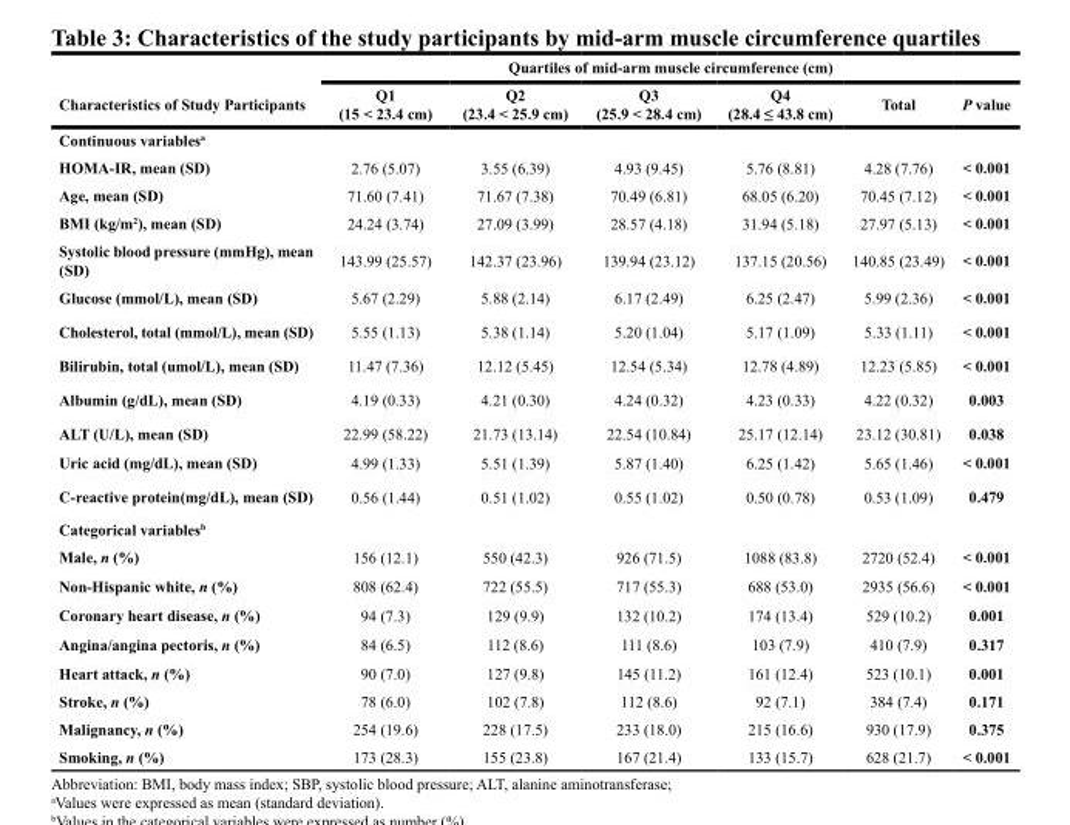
<table><thead><tr><td rowspan="2">Characteristics of Study Participants</td><td colspan="6">Quartiles of mid-arm muscle circumference (cm)</td></tr><tr><td>Q1 (15 &lt; 23.4 cm)</td><td>Q2 (23.4 &lt; 25.9 cm)</td><td>Q3 (25.9 &lt; 28.4 cm)</td><td>Q4 (28.4 ≤ 43.8 cm)</td><td>Total</td><td>P value</td></tr></thead><tbody><tr><td colspan="7">Continuous variables<sup>a</sup></td></tr><tr><td>HOMA-IR, mean (SD)</td><td>2.76 (5.07)</td><td>3.55 (6.39)</td><td>4.93 (9.45)</td><td>5.76 (8.81)</td><td>4.28 (7.76)</td><td>&lt; 0.001</td></tr><tr><td>Age, mean (SD)</td><td>71.60 (7.41)</td><td>71.67 (7.38)</td><td>70.49 (6.81)</td><td>68.05 (6.20)</td><td>70.45 (7.12)</td><td>&lt; 0.001</td></tr><tr><td>BMI (kg/m<sup>2</sup>), mean (SD)</td><td>24.24 (3.74)</td><td>27.09 (3.99)</td><td>28.57 (4.18)</td><td>31.94 (5.18)</td><td>27.97 (5.13)</td><td>&lt; 0.001</td></tr><tr><td>Systolic blood pressure (mmHg), mean (SD)</td><td>143.99 (25.57)</td><td>142.37 (23.96)</td><td>139.94 (23.12)</td><td>137.15 (20.56)</td><td>140.85 (23.49)</td><td>&lt; 0.001</td></tr><tr><td>Glucose (mmol/L), mean (SD)</td><td>5.67 (2.29)</td><td>5.88 (2.14)</td><td>6.17 (2.49)</td><td>6.25 (2.47)</td><td>5.99 (2.36)</td><td>&lt; 0.001</td></tr><tr><td>Cholesterol, total (mmol/L), mean (SD)</td><td>5.55 (1.13)</td><td>5.38 (1.14)</td><td>5.20 (1.04)</td><td>5.17 (1.09)</td><td>5.33 (1.11)</td><td>&lt; 0.001</td></tr><tr><td>Bilirubin, total (umol/L), mean (SD)</td><td>11.47 (7.36)</td><td>12.12 (5.45)</td><td>12.54 (5.34)</td><td>12.78 (4.89)</td><td>12.23 (5.85)</td><td>&lt; 0.001</td></tr><tr><td>Albumin (g/dL), mean (SD)</td><td>4.19 (0.33)</td><td>4.21 (0.30)</td><td>4.24 (0.32)</td><td>4.23 (0.33)</td><td>4.22 (0.32)</td><td>0.003</td></tr><tr><td>ALT (U/L), mean (SD)</td><td>22.99 (58.22)</td><td>21.73 (13.14)</td><td>22.54 (10.84)</td><td>25.17 (12.14)</td><td>23.12 (30.81)</td><td>0.038</td></tr><tr><td>Uric acid (mg/dL), mean (SD)</td><td>4.99 (1.33)</td><td>5.51 (1.39)</td><td>5.87 (1.40)</td><td>6.25 (1.42)</td><td>5.65 (1.46)</td><td>&lt; 0.001</td></tr><tr><td>C-reactive protein(mg/dL), mean (SD)</td><td>0.56 (1.44)</td><td>0.51 (1.02)</td><td>0.55 (1.02)</td><td>0.50 (0.78)</td><td>0.53 (1.09)</td><td>0.479</td></tr><tr><td colspan="7">Categorical variables<sup>b</sup></td></tr><tr><td>Male, n (%)</td><td>156 (12.1)</td><td>550 (42.3)</td><td>926 (71.5)</td><td>1088 (83.8)</td><td>2720 (52.4)</td><td>&lt; 0.001</td></tr><tr><td>Non-Hispanic white, n (%)</td><td>808 (62.4)</td><td>722 (55.5)</td><td>717 (55.3)</td><td>688 (53.0)</td><td>2935 (56.6)</td><td>&lt; 0.001</td></tr><tr><td>Coronary heart disease, n (%)</td><td>94 (7.3)</td><td>129 (9.9)</td><td>132 (10.2)</td><td>174 (13.4)</td><td>529 (10.2)</td><td>0.001</td></tr><tr><td>Angina/angina pectoris, n (%)</td><td>84 (6.5)</td><td>112 (8.6)</td><td>111 (8.6)</td><td>103 (7.9)</td><td>410 (7.9)</td><td>0.317</td></tr><tr><td>Heart attack, n (%)</td><td>90 (7.0)</td><td>127 (9.8)</td><td>145 (11.2)</td><td>161 (12.4)</td><td>523 (10.1)</td><td>0.001</td></tr><tr><td>Stroke, n (%)</td><td>78 (6.0)</td><td>102 (7.8)</td><td>112 (8.6)</td><td>92 (7.1)</td><td>384 (7.4)</td><td>0.171</td></tr><tr><td>Malignancy, n (%)</td><td>254 (19.6)</td><td>228 (17.5)</td><td>233 (18.0)</td><td>215 (16.6)</td><td>930 (17.9)</td><td>0.375</td></tr><tr><td>Smoking, n (%)</td><td>173 (28.3)</td><td>155 (23.8)</td><td>167 (21.4)</td><td>133 (15.7)</td><td>628 (21.7)</td><td>&lt; 0.001</td></tr></tbody></table>